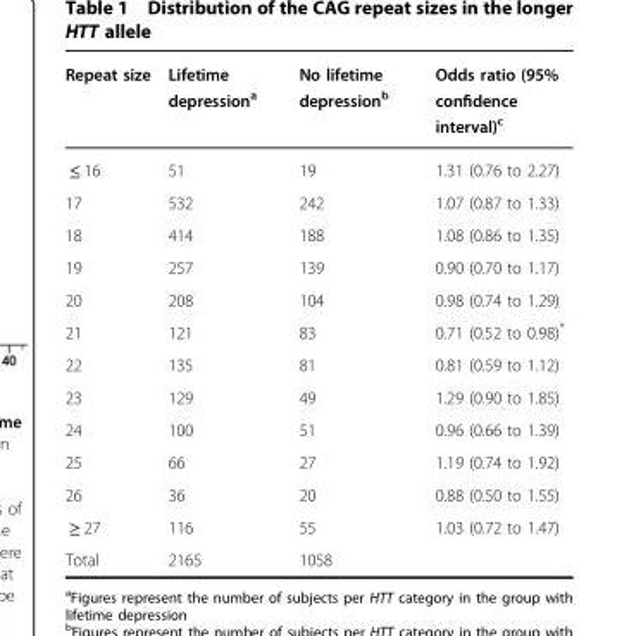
<table><thead><tr><td>Repeat size</td><td>Lifetime depression<sup>a</sup></td><td>No lifetime depression<sup>b</sup></td><td>Odds ratio (95% confidence interval)<sup>c</sup></td></tr></thead><tbody><tr><td>≤ 16</td><td>51</td><td>19</td><td>1.31 (0.76 to 2.27)</td></tr><tr><td>17</td><td>532</td><td>242</td><td>1.07 (0.87 to 1.33)</td></tr><tr><td>18</td><td>414</td><td>188</td><td>1.08 (0.86 to 1.35)</td></tr><tr><td>19</td><td>257</td><td>139</td><td>0.90 (0.70 to 1.17)</td></tr><tr><td>20</td><td>208</td><td>104</td><td>0.98 (0.74 to 1.29)</td></tr><tr><td>21</td><td>121</td><td>83</td><td>0.71 (0.52 to 0.98)*</td></tr><tr><td>22</td><td>135</td><td>81</td><td>0.81 (0.59 to 1.12)</td></tr><tr><td>23</td><td>129</td><td>49</td><td>1.29 (0.90 to 1.85)</td></tr><tr><td>24</td><td>100</td><td>51</td><td>0.96 (0.66 to 1.39)</td></tr><tr><td>25</td><td>66</td><td>27</td><td>1.19 (0.74 to 1.92)</td></tr><tr><td>26</td><td>36</td><td>20</td><td>0.88 (0.50 to 1.55)</td></tr><tr><td>≥ 27</td><td>116</td><td>55</td><td>1.03 (0.72 to 1.47)</td></tr><tr><td>Total</td><td>2165</td><td>1058</td><td></td></tr></tbody></table>